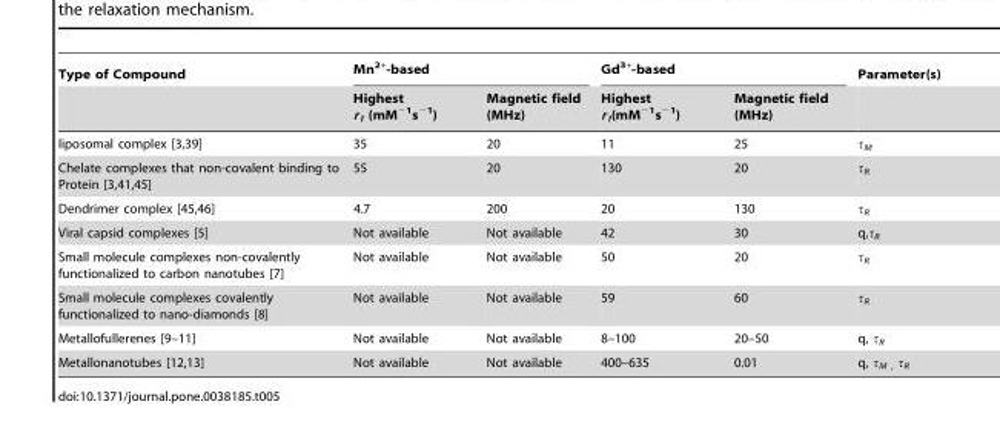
<table><thead><tr><td rowspan="2">Type of Compound</td><td colspan="2">Mn<sup>2+</sup>-based</td><td colspan="2">Gd<sup>3+</sup>-based</td><td rowspan="2">Parameter(s)</td></tr><tr><td>Highest r<sub>1</sub> (mM<sup>−1</sup>s<sup>−1</sup>)</td><td>Magnetic field (MHz)</td><td>Highest r<sub>1</sub>(mM<sup>−1</sup>s<sup>−1</sup>)</td><td>Magnetic field (MHz)</td></tr></thead><tbody><tr><td>liposomal complex [3,39]</td><td>35</td><td>20</td><td>11</td><td>25</td><td>τ<sub>M</sub></td></tr><tr><td>Chelate complexes that non-covalent binding to Protein [3,41,45]</td><td>55</td><td>20</td><td>130</td><td>20</td><td>τ<sub>R</sub></td></tr><tr><td>Dendrimer complex [45,46]</td><td>4.7</td><td>200</td><td>20</td><td>130</td><td>τ<sub>R</sub></td></tr><tr><td>Viral capsid complexes [5]</td><td>Not available</td><td>Not available</td><td>42</td><td>30</td><td>q,τ<sub>R</sub></td></tr><tr><td>Small molecule complexes non-covalently functionalized to carbon nanotubes [7]</td><td>Not available</td><td>Not available</td><td>50</td><td>20</td><td>τ<sub>R</sub></td></tr><tr><td>Small molecule complexes covalently functionalized to nano-diamonds [8]</td><td>Not available</td><td>Not available</td><td>59</td><td>60</td><td>τ<sub>R</sub></td></tr><tr><td>Metallofullerenes [9–11]</td><td>Not available</td><td>Not available</td><td>8–100</td><td>20–50</td><td>q, τ<sub>R</sub></td></tr><tr><td>Metallonanotubes [12,13]</td><td>Not available</td><td>Not available</td><td>400–635</td><td>0.01</td><td>q, τ<sub>M ,</sub> τ<sub>R</sub></td></tr></tbody></table>